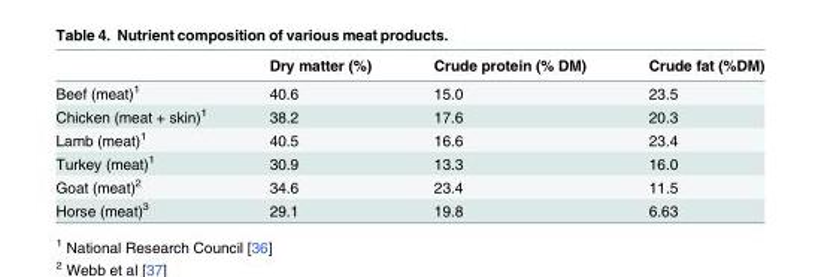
<table><thead><tr><td></td><td>Dry matter (%)</td><td>Crude protein (% DM)</td><td>Crude fat (%DM)</td></tr></thead><tbody><tr><td>Beef (meat)<sup>1</sup></td><td>40.6</td><td>15.0</td><td>23.5</td></tr><tr><td>Chicken (meat + skin)<sup>1</sup></td><td>38.2</td><td>17.6</td><td>20.3</td></tr><tr><td>Lamb (meat)<sup>1</sup></td><td>40.5</td><td>16.6</td><td>23.4</td></tr><tr><td>Turkey (meat)<sup>1</sup></td><td>30.9</td><td>13.3</td><td>16.0</td></tr><tr><td>Goat (meat)<sup>2</sup></td><td>34.6</td><td>23.4</td><td>11.5</td></tr><tr><td>Horse (meat)<sup>3</sup></td><td>29.1</td><td>19.8</td><td>6.63</td></tr></tbody></table>